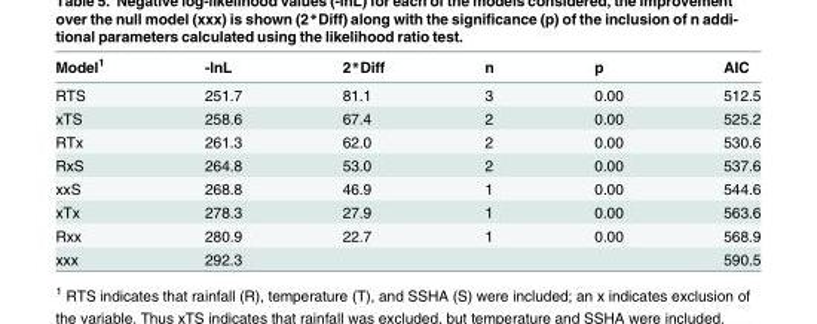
<table><thead><tr><td>Model<sup>1</sup></td><td>-lnL</td><td>2*Diff</td><td>n</td><td>p</td><td>AIC</td></tr></thead><tbody><tr><td>RTS</td><td>251.7</td><td>81.1</td><td>3</td><td>0.00</td><td>512.5</td></tr><tr><td>xTS</td><td>258.6</td><td>67.4</td><td>2</td><td>0.00</td><td>525.2</td></tr><tr><td>RTx</td><td>261.3</td><td>62.0</td><td>2</td><td>0.00</td><td>530.6</td></tr><tr><td>RxS</td><td>264.8</td><td>53.0</td><td>2</td><td>0.00</td><td>537.6</td></tr><tr><td>xxS</td><td>268.8</td><td>46.9</td><td>1</td><td>0.00</td><td>544.6</td></tr><tr><td>xTx</td><td>278.3</td><td>27.9</td><td>1</td><td>0.00</td><td>563.6</td></tr><tr><td>Rxx</td><td>280.9</td><td>22.7</td><td>1</td><td>0.00</td><td>568.9</td></tr><tr><td>xxx</td><td>292.3</td><td></td><td></td><td></td><td>590.5</td></tr></tbody></table>